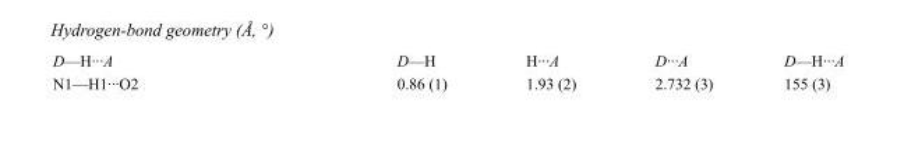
<table><tbody><tr><td>D—H···A</td><td>D—H</td><td>H···A</td><td>D···A</td><td>D—H···A</td></tr><tr><td>N1—H1···O2</td><td>0.86 (1)</td><td>1.93 (2)</td><td>2.732 (3)</td><td>155 (3)</td></tr></tbody></table>